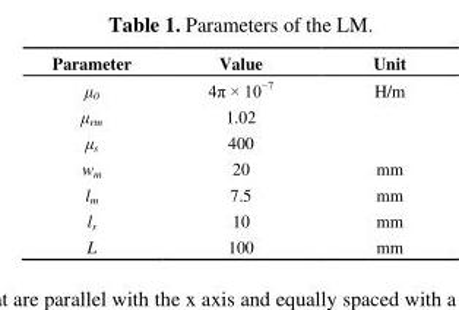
<table><thead><tr><td>Parameter</td><td>Value</td><td>Unit</td></tr></thead><tbody><tr><td>μ<sub>0</sub></td><td>4π × 10<sup>−7</sup></td><td>H/m</td></tr><tr><td>μ<sub>rm</sub></td><td>1.02</td><td></td></tr><tr><td>μ<sub>s</sub></td><td>400</td><td></td></tr><tr><td>w<sub>m</sub></td><td>20</td><td>mm</td></tr><tr><td>l<sub>m</sub></td><td>7.5</td><td>mm</td></tr><tr><td>l<sub>s</sub></td><td>10</td><td>mm</td></tr><tr><td>L</td><td>100</td><td>mm</td></tr></tbody></table>